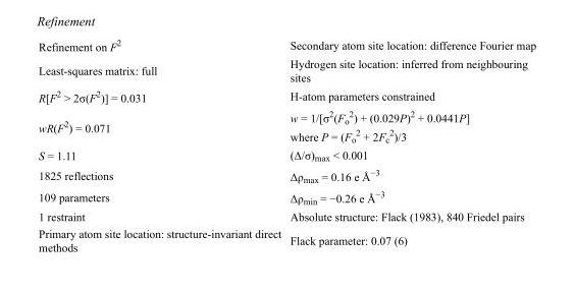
<table><tbody><tr><td>Refinement on F<sup>2</sup></td><td>Secondary atom site location: difference Fourier map</td></tr><tr><td>Least-squares matrix: full</td><td>Hydrogen site location: inferred from neighbouring sites</td></tr><tr><td>R[F<sup>2</sup> &gt; 2σ(F<sup>2</sup>)] = 0.031</td><td>H-atom parameters constrained</td></tr><tr><td>wR(F<sup>2</sup>) = 0.071</td><td>w = 1/[σ<sup>2</sup>(F<sub>o</sub> <sup>2</sup>) + (0.029P)<sup>2</sup> + 0.0441P] where P = (F<sub>o</sub> <sup>2</sup> + 2F<sub>c</sub> <sup>2</sup>)/3</td></tr><tr><td>S = 1.11</td><td>(Δ/σ)<sub>max</sub> &lt; 0.001</td></tr><tr><td>1825 reflections</td><td>Δρ<sub>max</sub> = 0.16 e Å<sup>−3</sup></td></tr><tr><td>109 parameters</td><td>Δρ<sub>min</sub> = −0.26 e Å<sup>−3</sup></td></tr><tr><td>1 restraint</td><td>Absolute structure: Flack (1983), 840 Friedel pairs</td></tr><tr><td>Primary atom site location: structure-invariant direct methods</td><td>Flack parameter: 0.07 (6)</td></tr></tbody></table>